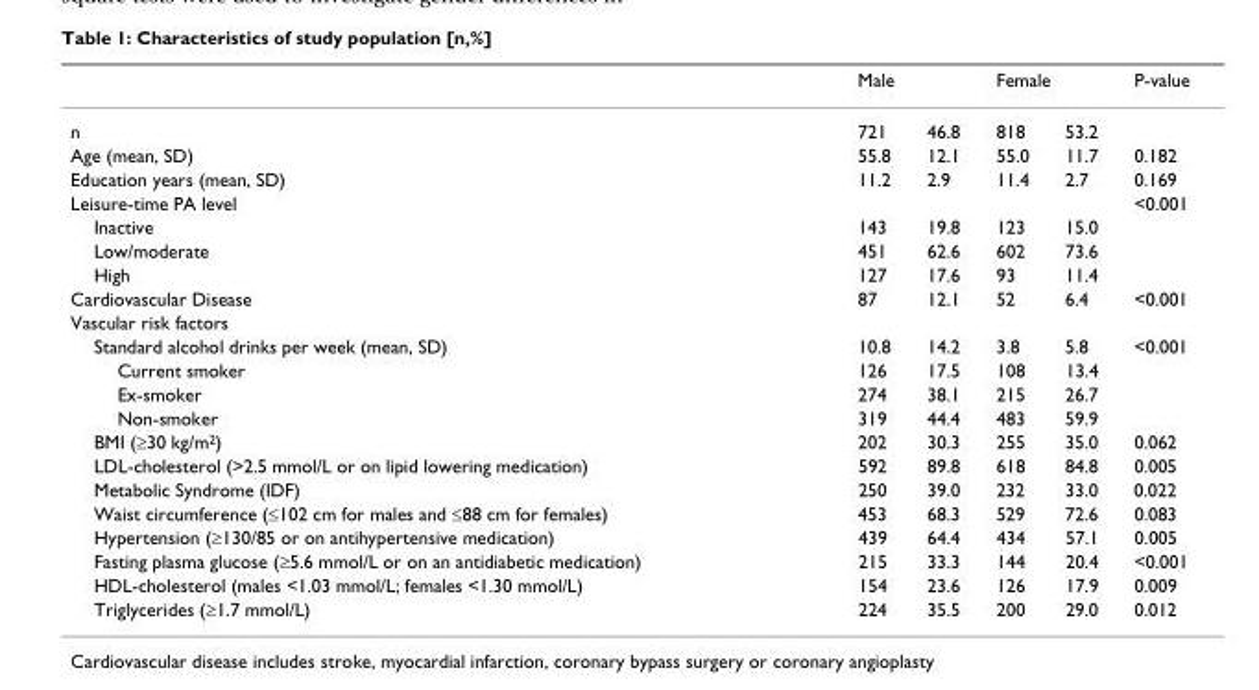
<table><thead><tr><td rowspan="2">n</td><td colspan="2">Male</td><td colspan="2">Female</td><td rowspan="2">P-value</td></tr><tr><td>721</td><td>46.8</td><td>818</td><td>53.2</td></tr></thead><tbody><tr><td>Age (mean, SD)</td><td>55.8</td><td>12.1</td><td>55.0</td><td>11.7</td><td>0.182</td></tr><tr><td>Education years (mean, SD)</td><td>11.2</td><td>2.9</td><td>11.4</td><td>2.7</td><td>0.169</td></tr><tr><td>Leisure-time PA level</td><td></td><td></td><td></td><td></td><td>&lt;0.001</td></tr><tr><td>Inactive</td><td>143</td><td>19.8</td><td>123</td><td>15.0</td><td></td></tr><tr><td>Low/moderate</td><td>451</td><td>62.6</td><td>602</td><td>73.6</td><td></td></tr><tr><td>High</td><td>127</td><td>17.6</td><td>93</td><td>11.4</td><td></td></tr><tr><td>Cardiovascular Disease</td><td>87</td><td>12.1</td><td>52</td><td>6.4</td><td>&lt;0.001</td></tr><tr><td colspan="6">Vascular risk factors</td></tr><tr><td>Standard alcohol drinks per week (mean, SD)</td><td>10.8</td><td>14.2</td><td>3.8</td><td>5.8</td><td>&lt;0.001</td></tr><tr><td>Current smoker</td><td>126</td><td>17.5</td><td>108</td><td>13.4</td><td></td></tr><tr><td>Ex-smoker</td><td>274</td><td>38.1</td><td>215</td><td>26.7</td><td></td></tr><tr><td>Non-smoker</td><td>319</td><td>44.4</td><td>483</td><td>59.9</td><td></td></tr><tr><td>BMI (≥30 kg/m<sup>2</sup>)</td><td>202</td><td>30.3</td><td>255</td><td>35.0</td><td>0.062</td></tr><tr><td>LDL-cholesterol (&gt;2.5 mmol/L or on lipid lowering medication)</td><td>592</td><td>89.8</td><td>618</td><td>84.8</td><td>0.005</td></tr><tr><td>Metabolic Syndrome (IDF)</td><td>250</td><td>39.0</td><td>232</td><td>33.0</td><td>0.022</td></tr><tr><td>Waist circumference (≤102 cm for males and ≤88 cm for females)</td><td>453</td><td>68.3</td><td>529</td><td>72.6</td><td>0.083</td></tr><tr><td>Hypertension (≥130/85 or on antihypertensive medication)</td><td>439</td><td>64.4</td><td>434</td><td>57.1</td><td>0.005</td></tr><tr><td>Fasting plasma glucose (≥5.6 mmol/L or on an antidiabetic medication)</td><td>215</td><td>33.3</td><td>144</td><td>20.4</td><td>&lt;0.001</td></tr><tr><td>HDL-cholesterol (males &lt;1.03 mmol/L; females &lt;1.30 mmol/L)</td><td>154</td><td>23.6</td><td>126</td><td>17.9</td><td>0.009</td></tr><tr><td>Triglycerides (≥1.7 mmol/L)</td><td>224</td><td>35.5</td><td>200</td><td>29.0</td><td>0.012</td></tr></tbody></table>